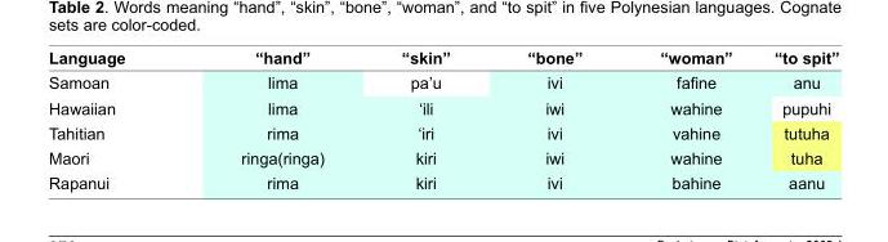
<table><thead><tr><td>Language</td><td>“hand”</td><td>“skin”</td><td>“bone”</td><td>“woman”</td><td>“to spit”</td></tr></thead><tbody><tr><td>Samoan</td><td>lima</td><td>pa’u</td><td>ivi</td><td>fafi ne</td><td>anu</td></tr><tr><td>Hawaiian</td><td>lima</td><td>‘ili</td><td>iwi</td><td>wahine</td><td>pupuhi</td></tr><tr><td>Tahitian</td><td>rima</td><td>‘iri</td><td>ivi</td><td>vahine</td><td>tutuha</td></tr><tr><td>Maori</td><td>ringa(ringa)</td><td>kiri</td><td>iwi</td><td>wahine</td><td>tuha</td></tr><tr><td>Rapanui</td><td>rima</td><td>kiri</td><td>ivi</td><td>bahine</td><td>aanu</td></tr></tbody></table>